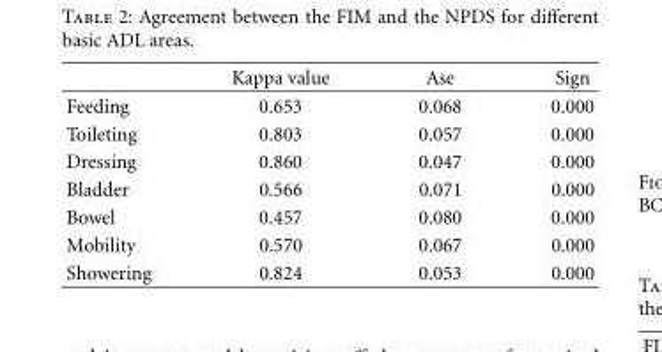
<table><thead><tr><td></td><td>Kappa value</td><td>Ase</td><td>Sign</td></tr></thead><tbody><tr><td>Feeding</td><td>0.653</td><td>0.068</td><td>0.000</td></tr><tr><td>Toileting</td><td>0.803</td><td>0.057</td><td>0.000</td></tr><tr><td>Dressing</td><td>0.860</td><td>0.047</td><td>0.000</td></tr><tr><td>Bladder</td><td>0.566</td><td>0.071</td><td>0.000</td></tr><tr><td>Bowel</td><td>0.457</td><td>0.080</td><td>0.000</td></tr><tr><td>Mobility</td><td>0.570</td><td>0.067</td><td>0.000</td></tr><tr><td>Showering</td><td>0.824</td><td>0.053</td><td>0.000</td></tr></tbody></table>